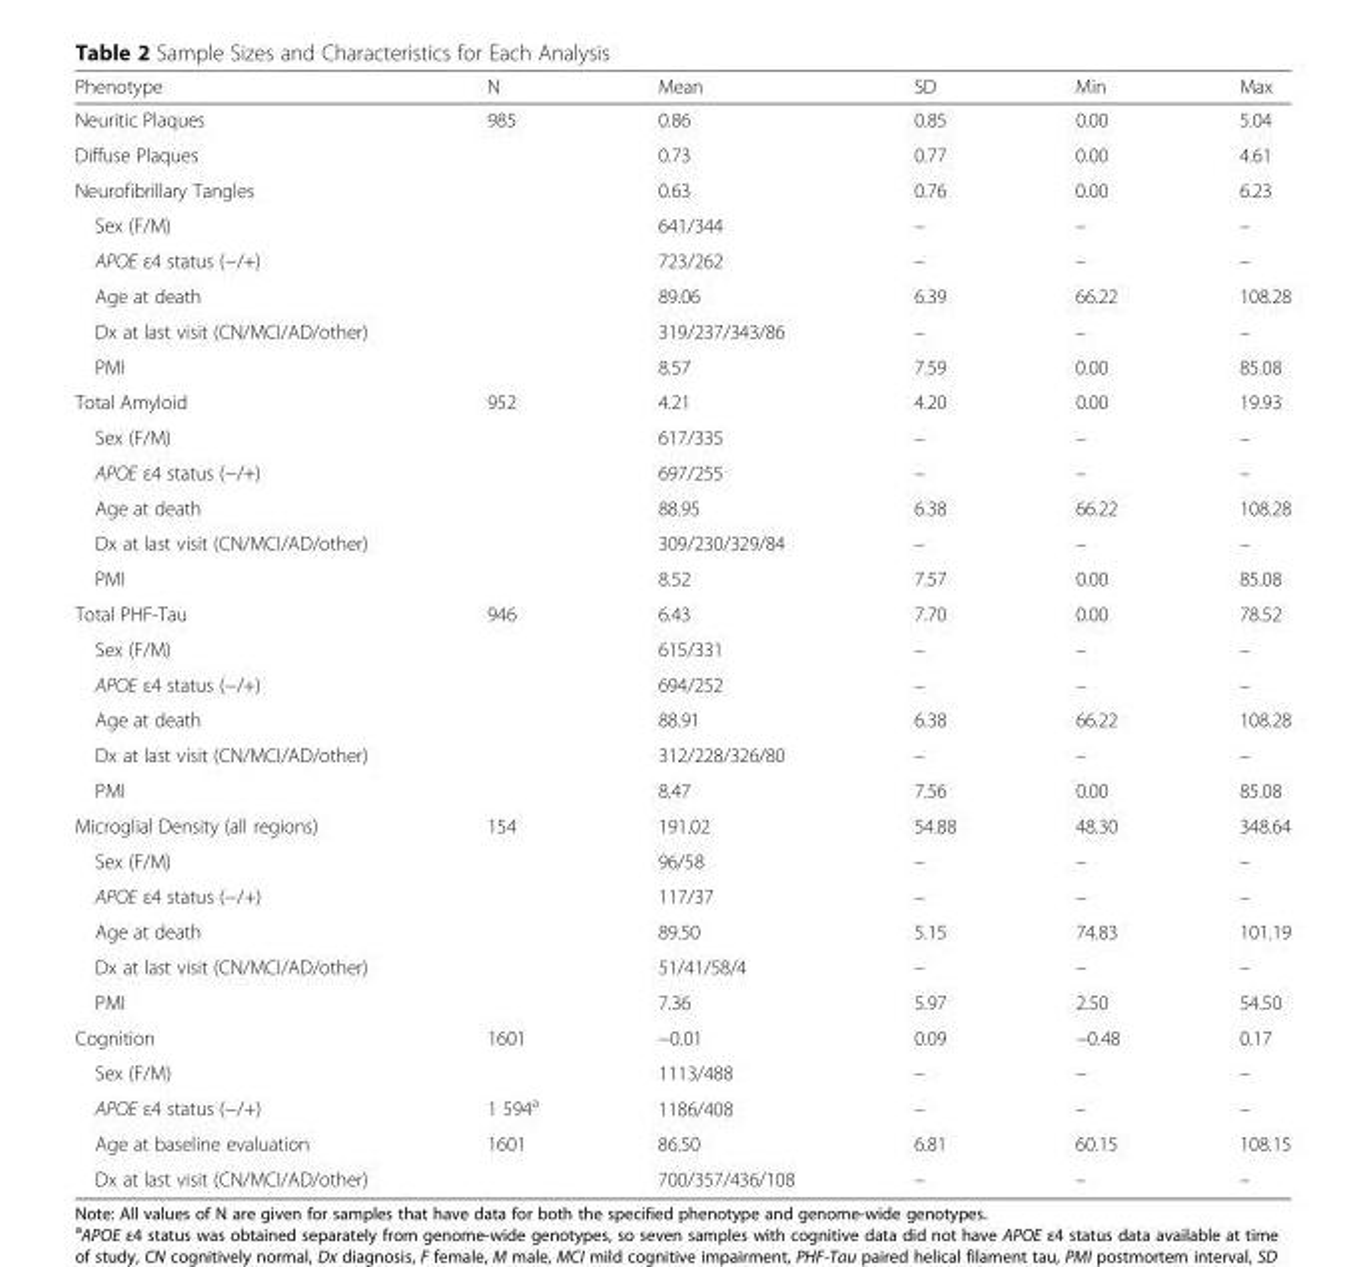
<table><thead><tr><td>Phenotype</td><td>N</td><td>Mean</td><td>SD</td><td>Min</td><td>Max</td></tr></thead><tbody><tr><td>Neuritic Plaques</td><td rowspan="8">985</td><td>0.86</td><td>0.85</td><td>0.00</td><td>5.04</td></tr><tr><td>Diffuse Plaques</td><td>0.73</td><td>0.77</td><td>0.00</td><td>4.61</td></tr><tr><td>Neurofibrillary Tangles</td><td>0.63</td><td>0.76</td><td>0.00</td><td>6.23</td></tr><tr><td>Sex (F/M)</td><td>641/344</td><td>–</td><td>–</td><td>–</td></tr><tr><td>APOE ε4 status (−/+)</td><td>723/262</td><td>–</td><td>–</td><td>–</td></tr><tr><td>Age at death</td><td>89.06</td><td>6.39</td><td>66.22</td><td>108.28</td></tr><tr><td>Dx at last visit (CN/MCI/AD/other)</td><td>319/237/343/86</td><td>–</td><td>–</td><td>–</td></tr><tr><td>PMI</td><td>8.57</td><td>7.59</td><td>0.00</td><td>85.08</td></tr><tr><td>Total Amyloid</td><td rowspan="6">952</td><td>4.21</td><td>4.20</td><td>0.00</td><td>19.93</td></tr><tr><td>Sex (F/M)</td><td>617/335</td><td>–</td><td>–</td><td>–</td></tr><tr><td>APOE ε4 status (−/+)</td><td>697/255</td><td>–</td><td>–</td><td>–</td></tr><tr><td>Age at death</td><td>88.95</td><td>6.38</td><td>66.22</td><td>108.28</td></tr><tr><td>Dx at last visit (CN/MCI/AD/other)</td><td>309/230/329/84</td><td>–</td><td>–</td><td>–</td></tr><tr><td>PMI</td><td>8.52</td><td>7.57</td><td>0.00</td><td>85.08</td></tr><tr><td>Total PHF-Tau</td><td rowspan="6">946</td><td>6.43</td><td>7.70</td><td>0.00</td><td>78.52</td></tr><tr><td>Sex (F/M)</td><td>615/331</td><td>–</td><td>–</td><td>–</td></tr><tr><td>APOE ε4 status (−/+)</td><td>694/252</td><td>–</td><td>–</td><td>–</td></tr><tr><td>Age at death</td><td>88.91</td><td>6.38</td><td>66.22</td><td>108.28</td></tr><tr><td>Dx at last visit (CN/MCI/AD/other)</td><td>312/228/326/80</td><td>–</td><td>–</td><td>–</td></tr><tr><td>PMI</td><td>8.47</td><td>7.56</td><td>0.00</td><td>85.08</td></tr><tr><td>Microglial Density (all regions)</td><td rowspan="6">154</td><td>191.02</td><td>54.88</td><td>48.30</td><td>348.64</td></tr><tr><td>Sex (F/M)</td><td>96/58</td><td>–</td><td>–</td><td>–</td></tr><tr><td>APOE ε4 status (−/+)</td><td>117/37</td><td>–</td><td>–</td><td>–</td></tr><tr><td>Age at death</td><td>89.50</td><td>5.15</td><td>74.83</td><td>101.19</td></tr><tr><td>Dx at last visit (CN/MCI/AD/other)</td><td>51/41/58/4</td><td>–</td><td>–</td><td>–</td></tr><tr><td>PMI</td><td>7.36</td><td>5.97</td><td>2.50</td><td>54.50</td></tr><tr><td>Cognition</td><td rowspan="2">1601</td><td>−0.01</td><td>0.09</td><td>−0.48</td><td>0.17</td></tr><tr><td>Sex (F/M)</td><td>1113/488</td><td>–</td><td>–</td><td>–</td></tr><tr><td>APOE ε4 status (−/+)</td><td>1 594<sup>a</sup></td><td>1186/408</td><td>–</td><td>–</td><td>–</td></tr><tr><td>Age at baseline evaluation</td><td rowspan="2">1601</td><td>86.50</td><td>6.81</td><td>60.15</td><td>108.15</td></tr><tr><td>Dx at last visit (CN/MCI/AD/other)</td><td>700/357/436/108</td><td>–</td><td>–</td><td>–</td></tr></tbody></table>